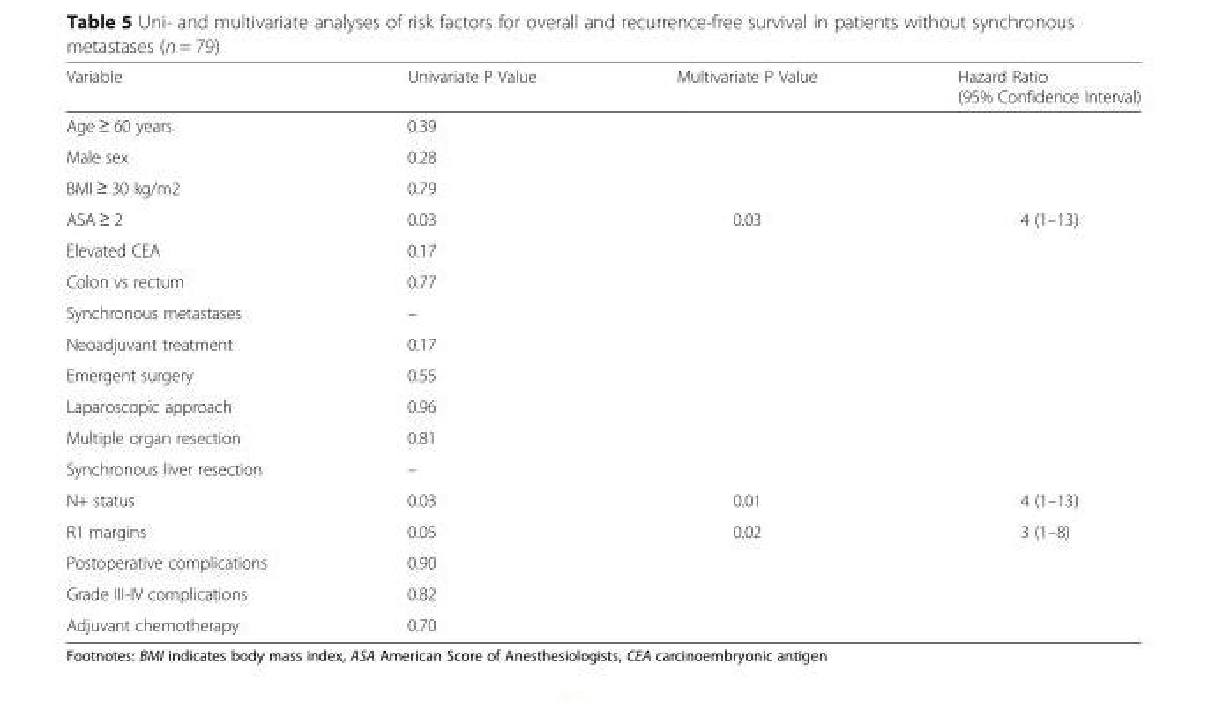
<table><thead><tr><td>Variable</td><td>Univariate P Value</td><td>Multivariate P Value</td><td>Hazard Ratio (95% Confidence Interval)</td></tr></thead><tbody><tr><td>Age ≥ 60 years</td><td>0.39</td><td></td><td></td></tr><tr><td>Male sex</td><td>0.28</td><td></td><td></td></tr><tr><td>BMI ≥ 30 kg/m2</td><td>0.79</td><td></td><td></td></tr><tr><td>ASA ≥ 2</td><td>0.03</td><td>0.03</td><td>4 (1–13)</td></tr><tr><td>Elevated CEA</td><td>0.17</td><td></td><td></td></tr><tr><td>Colon vs rectum</td><td>0.77</td><td></td><td></td></tr><tr><td>Synchronous metastases</td><td>–</td><td></td><td></td></tr><tr><td>Neoadjuvant treatment</td><td>0.17</td><td></td><td></td></tr><tr><td>Emergent surgery</td><td>0.55</td><td></td><td></td></tr><tr><td>Laparoscopic approach</td><td>0.96</td><td></td><td></td></tr><tr><td>Multiple organ resection</td><td>0.81</td><td></td><td></td></tr><tr><td>Synchronous liver resection</td><td>–</td><td></td><td></td></tr><tr><td>N+ status</td><td>0.03</td><td>0.01</td><td>4 (1–13)</td></tr><tr><td>R1 margins</td><td>0.05</td><td>0.02</td><td>3 (1–8)</td></tr><tr><td>Postoperative complications</td><td>0.90</td><td></td><td></td></tr><tr><td>Grade III-IV complications</td><td>0.82</td><td></td><td></td></tr><tr><td>Adjuvant chemotherapy</td><td>0.70</td><td></td><td></td></tr></tbody></table>